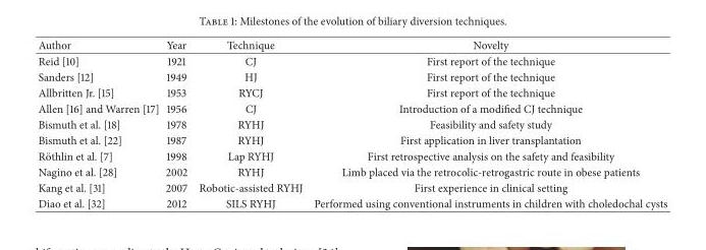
<table><thead><tr><td>Author</td><td>Year</td><td>Technique</td><td>Novelty</td></tr></thead><tbody><tr><td>Reid [10]</td><td>1921</td><td>CJ</td><td>First report of the technique</td></tr><tr><td>Sanders [12]</td><td>1949</td><td>HJ</td><td>First report of the technique</td></tr><tr><td>Allbritten Jr. [15]</td><td>1953</td><td>RYCJ</td><td>First report of the technique</td></tr><tr><td>Allen [16] and Warren [17]</td><td>1956</td><td>CJ</td><td>Introduction of a modified CJ technique</td></tr><tr><td>Bismuth et al. [18]</td><td>1978</td><td>RYHJ</td><td>Feasibility and safety study</td></tr><tr><td>Bismuth et al. [22]</td><td>1987</td><td>RYHJ</td><td>First application in liver transplantation</td></tr><tr><td>R¨othlin et al. [7]</td><td>1998</td><td>Lap RYHJ</td><td>First retrospective analysis on the safety and feasibility</td></tr><tr><td>Nagino et al. [28]</td><td>2002</td><td>RYHJ</td><td>Limb placed via the retrocolic-retrogastric route in obese patients</td></tr><tr><td>Kang et al. [31]</td><td>2007</td><td>Robotic-assisted RYHJ</td><td>First experience in clinical setting</td></tr><tr><td>Diao et al. [32]</td><td>2012</td><td>SILS RYHJ</td><td>Performed using conventional instruments in children with choledochal cysts</td></tr></tbody></table>